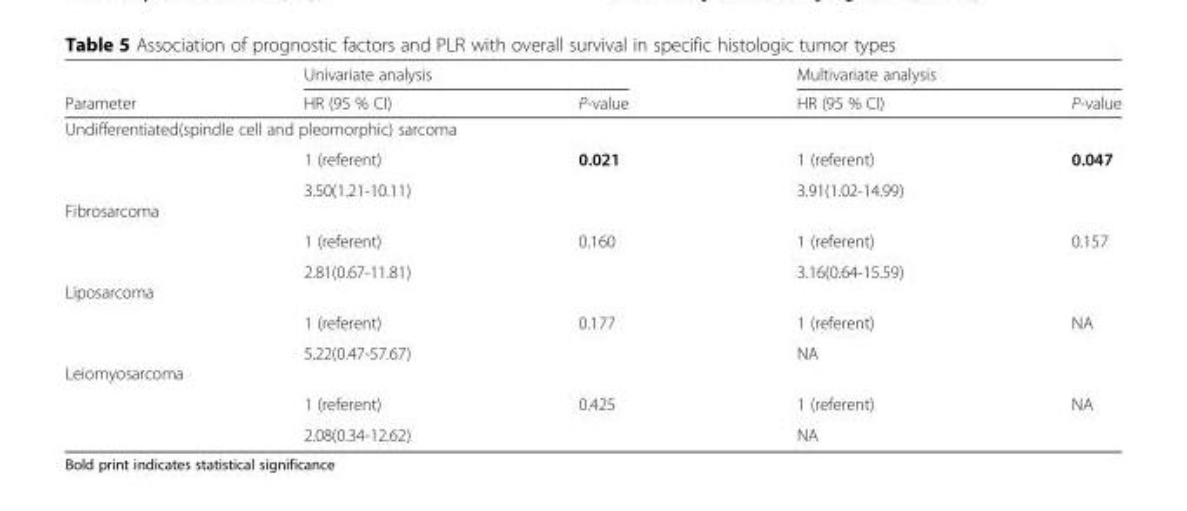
<table><thead><tr><td rowspan="2">Parameter</td><td colspan="2">Univariate analysis</td><td colspan="2">Multivariate analysis</td></tr><tr><td>HR (95 % CI)</td><td>P-value</td><td>HR (95 % CI)</td><td>P-value</td></tr></thead><tbody><tr><td colspan="5">Undifferentiated(spindle cell and pleomorphic) sarcoma</td></tr><tr><td rowspan="2"></td><td>1 (referent)</td><td rowspan="2">0.021</td><td>1 (referent)</td><td rowspan="2">0.047</td></tr><tr><td>3.50(1.21-10.11)</td><td>3.91(1.02-14.99)</td></tr><tr><td colspan="5">Fibrosarcoma</td></tr><tr><td rowspan="2"></td><td>1 (referent)</td><td rowspan="2">0.160</td><td>1 (referent)</td><td rowspan="2">0.157</td></tr><tr><td>2.81(0.67-11.81)</td><td>3.16(0.64-15.59)</td></tr><tr><td colspan="5">Liposarcoma</td></tr><tr><td rowspan="2"></td><td>1 (referent)</td><td rowspan="2">0.177</td><td>1 (referent)</td><td rowspan="2">NA</td></tr><tr><td>5.22(0.47-57.67)</td><td>NA</td></tr><tr><td colspan="5">Leiomyosarcoma</td></tr><tr><td rowspan="2"></td><td>1 (referent)</td><td rowspan="2">0.425</td><td>1 (referent)</td><td rowspan="2">NA</td></tr><tr><td>2.08(0.34-12.62)</td><td>NA</td></tr></tbody></table>